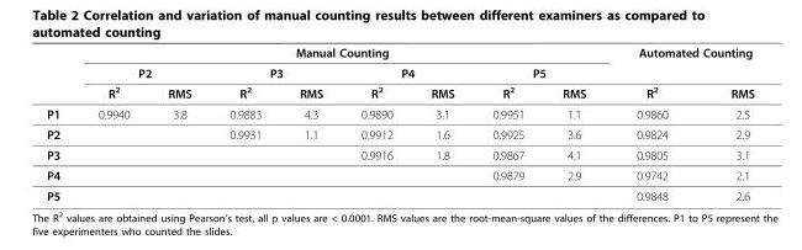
<table><thead><tr><td rowspan="3"></td><td colspan="8">Manual Counting</td><td colspan="2">Automated Counting</td></tr><tr><td colspan="2">P2</td><td colspan="2">P3</td><td colspan="2">P4</td><td colspan="2">P5</td><td rowspan="2">R<sup>2</sup></td><td rowspan="2">RMS</td></tr><tr><td>R<sup>2</sup></td><td>RMS</td><td>R<sup>2</sup></td><td>RMS</td><td>R<sup>2</sup></td><td>RMS</td><td>R<sup>2</sup></td><td>RMS</td></tr></thead><tbody><tr><td>P1</td><td>0.9940</td><td>3.8</td><td>0.9883</td><td>4.3</td><td>0.9890</td><td>3.1</td><td>0.9951</td><td>1.1</td><td>0.9860</td><td>2.5</td></tr><tr><td>P2</td><td></td><td></td><td>0.9931</td><td>1.1</td><td>0.9912</td><td>1.6</td><td>0.9925</td><td>3.6</td><td>0.9824</td><td>2.9</td></tr><tr><td>P3</td><td></td><td></td><td></td><td></td><td>0.9916</td><td>1.8</td><td>0.9867</td><td>4.1</td><td>0.9805</td><td>3.1</td></tr><tr><td>P4</td><td></td><td></td><td></td><td></td><td></td><td></td><td>0.9879</td><td>2.9</td><td>0.9742</td><td>2.1</td></tr><tr><td>P5</td><td></td><td></td><td></td><td></td><td></td><td></td><td></td><td></td><td>0.9848</td><td>2.6</td></tr></tbody></table>